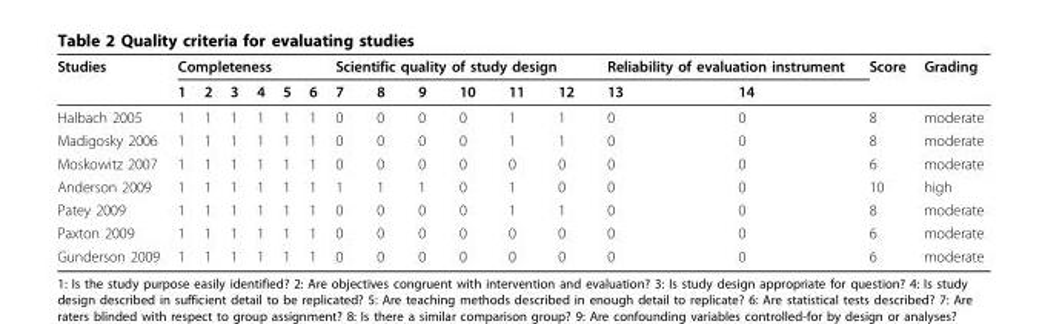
<table><thead><tr><td rowspan="2">Studies</td><td colspan="6">Completeness</td><td colspan="6">Scientific quality of study design</td><td colspan="2">Reliability of evaluation instrument</td><td rowspan="2">Score</td><td rowspan="2">Grading</td></tr><tr><td>1</td><td>2</td><td>3</td><td>4</td><td>5</td><td>6</td><td>7</td><td>8</td><td>9</td><td>10</td><td>11</td><td>12</td><td>13</td><td>14</td></tr></thead><tbody><tr><td>Halbach 2005</td><td>1</td><td>1</td><td>1</td><td>1</td><td>1</td><td>1</td><td>0</td><td>0</td><td>0</td><td>0</td><td>1</td><td>1</td><td>0</td><td>0</td><td>8</td><td>moderate</td></tr><tr><td>Madigosky 2006</td><td>1</td><td>1</td><td>1</td><td>1</td><td>1</td><td>1</td><td>0</td><td>0</td><td>0</td><td>0</td><td>1</td><td>1</td><td>0</td><td>0</td><td>8</td><td>moderate</td></tr><tr><td>Moskowitz 2007</td><td>1</td><td>1</td><td>1</td><td>1</td><td>1</td><td>1</td><td>0</td><td>0</td><td>0</td><td>0</td><td>0</td><td>0</td><td>0</td><td>0</td><td>6</td><td>moderate</td></tr><tr><td>Anderson 2009</td><td>1</td><td>1</td><td>1</td><td>1</td><td>1</td><td>1</td><td>1</td><td>1</td><td>1</td><td>0</td><td>1</td><td>0</td><td>0</td><td>0</td><td>10</td><td>high</td></tr><tr><td>Patey 2009</td><td>1</td><td>1</td><td>1</td><td>1</td><td>1</td><td>1</td><td>0</td><td>0</td><td>0</td><td>0</td><td>1</td><td>1</td><td>0</td><td>0</td><td>8</td><td>moderate</td></tr><tr><td>Paxton 2009</td><td>1</td><td>1</td><td>1</td><td>1</td><td>1</td><td>1</td><td>0</td><td>0</td><td>0</td><td>0</td><td>0</td><td>0</td><td>0</td><td>0</td><td>6</td><td>moderate</td></tr><tr><td>Gunderson 2009</td><td>1</td><td>1</td><td>1</td><td>1</td><td>1</td><td>1</td><td>0</td><td>0</td><td>0</td><td>0</td><td>0</td><td>0</td><td>0</td><td>0</td><td>6</td><td>moderate</td></tr></tbody></table>